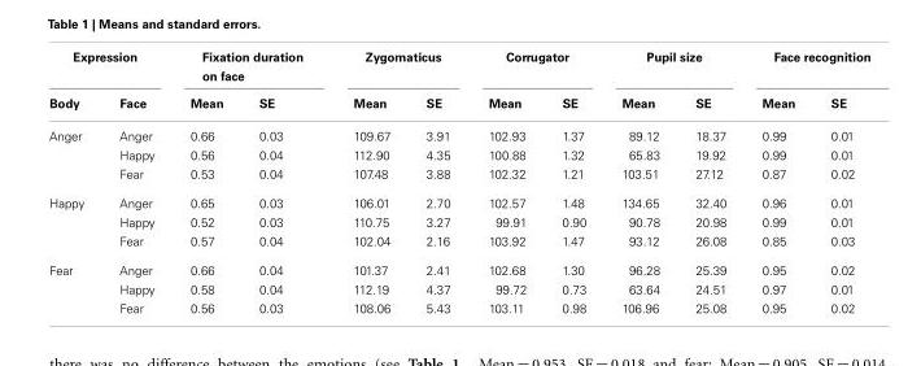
<table><thead><tr><td colspan="2">Expression</td><td colspan="2">Fixation duration on face</td><td colspan="2">Zygomaticus</td><td colspan="2">Corrugator</td><td colspan="2">Pupil size</td><td colspan="2">Face recognition</td></tr><tr><td>Body</td><td>Face</td><td>Mean</td><td>SE</td><td>Mean</td><td>SE</td><td>Mean</td><td>SE</td><td>Mean</td><td>SE</td><td>Mean</td><td>SE</td></tr></thead><tbody><tr><td rowspan="3">Anger</td><td>Anger</td><td>0.66</td><td>0.03</td><td>109.67</td><td>3.91</td><td>102.93</td><td>1.37</td><td>89.12</td><td>18.37</td><td>0.99</td><td>0.01</td></tr><tr><td>Happy</td><td>0.56</td><td>0.04</td><td>112.90</td><td>4.35</td><td>100.88</td><td>1.32</td><td>65.83</td><td>19.92</td><td>0.99</td><td>0.01</td></tr><tr><td>Fear</td><td>0.53</td><td>0.04</td><td>107.48</td><td>3.88</td><td>102.32</td><td>1.21</td><td>103.51</td><td>27.12</td><td>0.87</td><td>0.02</td></tr><tr><td rowspan="3">Happy</td><td>Anger</td><td>0.65</td><td>0.03</td><td>106.01</td><td>2.70</td><td>102.57</td><td>1.48</td><td>134.65</td><td>32.40</td><td>0.96</td><td>0.01</td></tr><tr><td>Happy</td><td>0.52</td><td>0.03</td><td>110.75</td><td>3.27</td><td>99.91</td><td>0.90</td><td>90.78</td><td>20.98</td><td>0.99</td><td>0.01</td></tr><tr><td>Fear</td><td>0.57</td><td>0.04</td><td>102.04</td><td>2.16</td><td>103.92</td><td>1.47</td><td>93.12</td><td>26.08</td><td>0.85</td><td>0.03</td></tr><tr><td rowspan="3">Fear</td><td>Anger</td><td>0.66</td><td>0.04</td><td>101.37</td><td>2.41</td><td>102.68</td><td>1.30</td><td>96.28</td><td>25.39</td><td>0.95</td><td>0.02</td></tr><tr><td>Happy</td><td>0.58</td><td>0.04</td><td>112.19</td><td>4.37</td><td>99.72</td><td>0.73</td><td>63.64</td><td>24.51</td><td>0.97</td><td>0.01</td></tr><tr><td>Fear</td><td>0.56</td><td>0.03</td><td>108.06</td><td>5.43</td><td>103.11</td><td>0.98</td><td>106.96</td><td>25.08</td><td>0.95</td><td>0.02</td></tr></tbody></table>